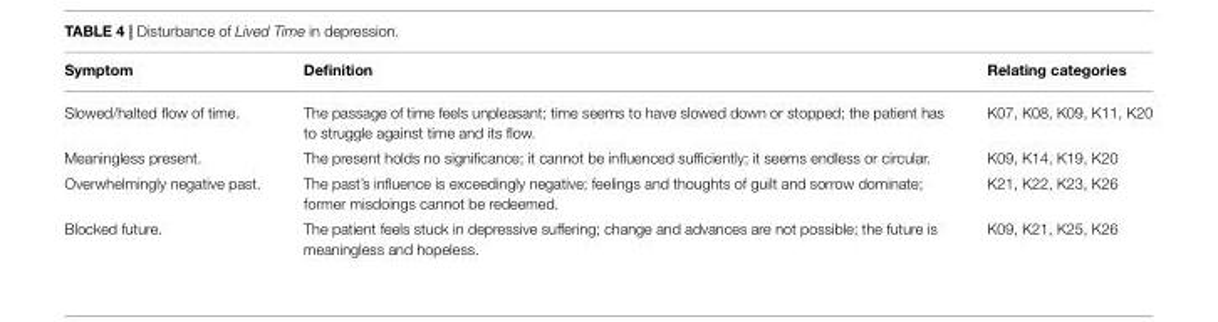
<table><thead><tr><td>Symptom</td><td>Definition</td><td>Relating categories</td></tr></thead><tbody><tr><td>Slowed/halted flow of time.</td><td>The passage of time feels unpleasant; time seems to have slowed down or stopped; the patient has to struggle against time and its flow.</td><td>K07, K08, K09, K11, K20</td></tr><tr><td>Meaningless present.</td><td>The present holds no significance; it cannot be influenced sufficiently; it seems endless or circular.</td><td>K09, K14, K19, K20</td></tr><tr><td>Overwhelmingly negative past.</td><td>The past’s influence is exceedingly negative; feelings and thoughts of guilt and sorrow dominate; former misdoings cannot be redeemed.</td><td>K21, K22, K23, K26</td></tr><tr><td>Blocked future.</td><td>The patient feels stuck in depressive suffering; change and advances are not possible; the future is meaningless and hopeless.</td><td>K09, K21, K25, K26</td></tr></tbody></table>